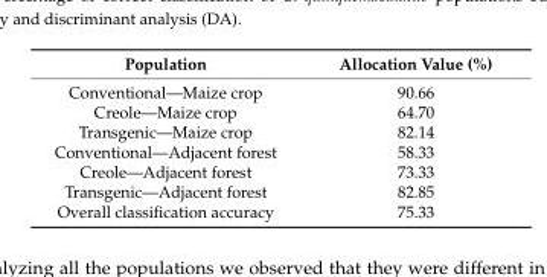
<table><thead><tr><td>Population</td><td>Allocation Value (%)</td></tr></thead><tbody><tr><td>Conventional—Maize crop</td><td>90.66</td></tr><tr><td>Creole—Maize crop</td><td>64.70</td></tr><tr><td>Transgenic—Maize crop</td><td>82.14</td></tr><tr><td>Conventional—Adjacent forest</td><td>58.33</td></tr><tr><td>Creole—Adjacent forest</td><td>73.33</td></tr><tr><td>Transgenic—Adjacent forest</td><td>82.85</td></tr><tr><td>Overall classification accuracy</td><td>75.33</td></tr></tbody></table>